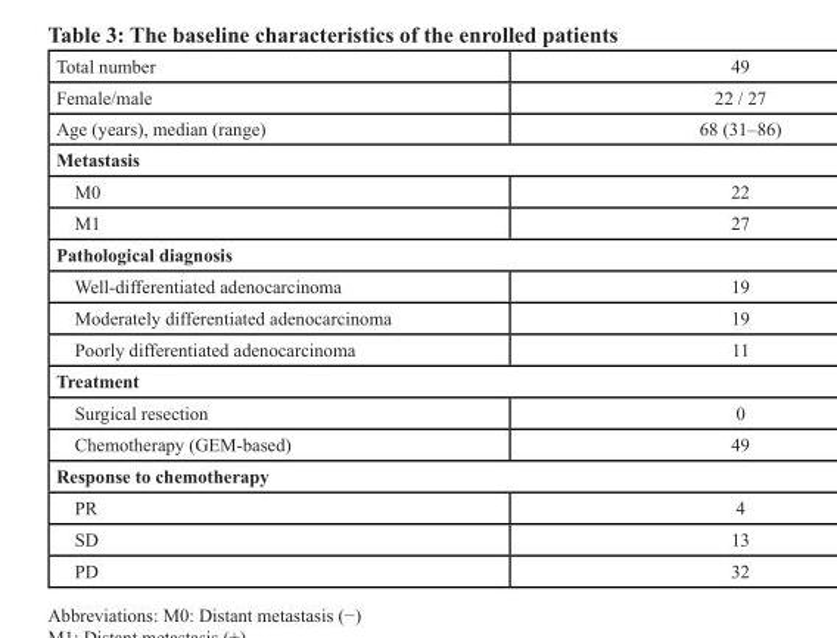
<table><tbody><tr><td>Total number</td><td>49</td></tr><tr><td>Female/male</td><td>22 / 27</td></tr><tr><td>Age (years), median (range)</td><td>68 (31–86)</td></tr><tr><td colspan="2">Metastasis</td></tr><tr><td>M0</td><td>22</td></tr><tr><td>M1</td><td>27</td></tr><tr><td colspan="2">Pathological diagnosis</td></tr><tr><td>Well-differentiated adenocarcinoma</td><td>19</td></tr><tr><td>Moderately differentiated adenocarcinoma</td><td>19</td></tr><tr><td>Poorly differentiated adenocarcinoma</td><td>11</td></tr><tr><td colspan="2">Treatment</td></tr><tr><td>Surgical resection</td><td>0</td></tr><tr><td>Chemotherapy (GEM-based)</td><td>49</td></tr><tr><td colspan="2">Response to chemotherapy</td></tr><tr><td>PR</td><td>4</td></tr><tr><td>SD</td><td>13</td></tr><tr><td>PD</td><td>32</td></tr></tbody></table>